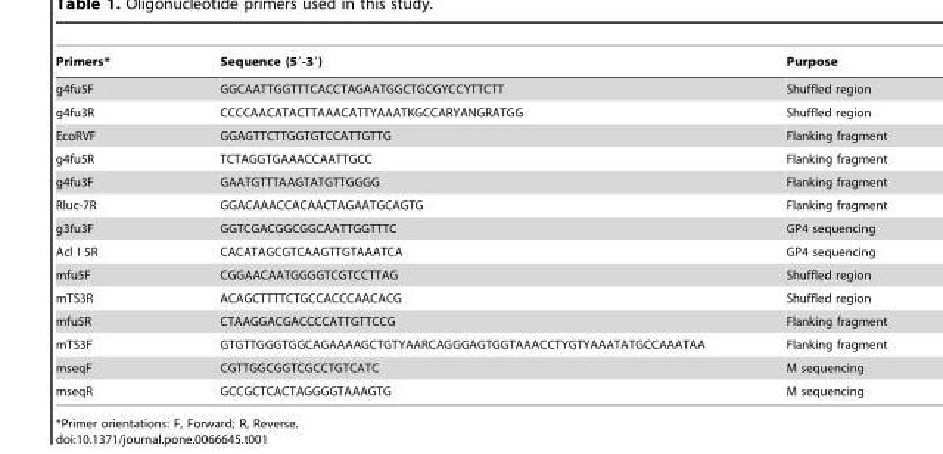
<table><thead><tr><td>Primers*</td><td>Sequence (5′-3′)</td><td>Purpose</td></tr></thead><tbody><tr><td>g4fu5F</td><td>GGCAATTGGTTTCACCTAGAATGGCTGCGYCCYTTCTT</td><td>Shuffled region</td></tr><tr><td>g4fu3R</td><td>CCCCAACATACTTAAACATTYAAATKGCCARYANGRATGG</td><td>Shuffled region</td></tr><tr><td>EcoRVF</td><td>GGAGTTCTTGGTGTCCATTGTTG</td><td>Flanking fragment</td></tr><tr><td>g4fu5R</td><td>TCTAGGTGAAACCAATTGCC</td><td>Flanking fragment</td></tr><tr><td>g4fu3F</td><td>GAATGTTTAAGTATGTTGGGG</td><td>Flanking fragment</td></tr><tr><td>Rluc-7R</td><td>GGACAAACCACAACTAGAATGCAGTG</td><td>Flanking fragment</td></tr><tr><td>g3fu3F</td><td>GGTCGACGGCGGCAATTGGTTTC</td><td>GP4 sequencing</td></tr><tr><td>Acl I 5R</td><td>CACATAGCGTCAAGTTGTAAATCA</td><td>GP4 sequencing</td></tr><tr><td>mfu5F</td><td>CGGAACAATGGGGTCGTCCTTAG</td><td>Shuffled region</td></tr><tr><td>mTS3R</td><td>ACAGCTTTTCTGCCACCCAACACG</td><td>Shuffled region</td></tr><tr><td>mfu5R</td><td>CTAAGGACGACCCCATTGTTCCG</td><td>Flanking fragment</td></tr><tr><td>mTS3F</td><td>GTGTTGGGTGGCAGAAAAGCTGTYAARCAGGGAGTGGTAAACCTYGTYAAATATGCCAAATAA</td><td>Flanking fragment</td></tr><tr><td>mseqF</td><td>CGTTGGCGGTCGCCTGTCATC</td><td>M sequencing</td></tr><tr><td>mseqR</td><td>GCCGCTCACTAGGGGTAAAGTG</td><td>M sequencing</td></tr></tbody></table>